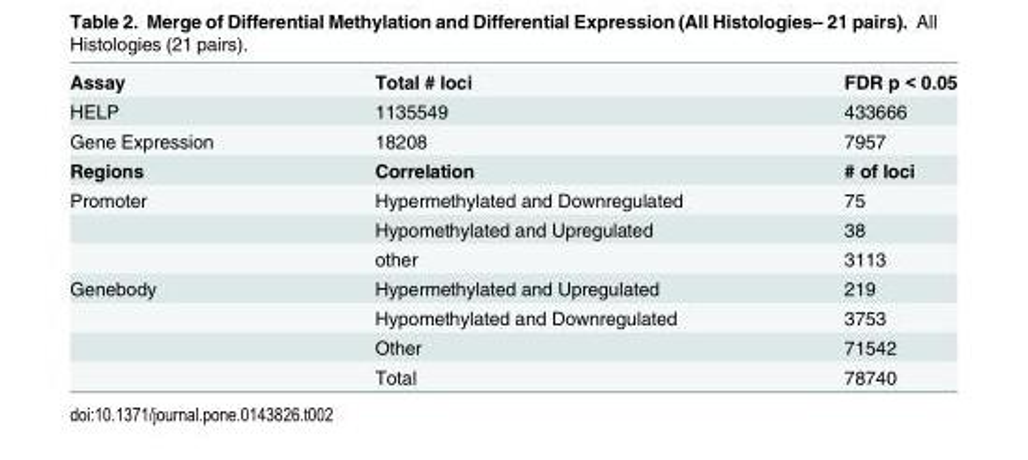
<table><tbody><tr><td>Assay</td><td>Total # loci</td><td>FDR p &lt; 0.05</td></tr><tr><td>HELP</td><td>1135549</td><td>433666</td></tr><tr><td>Gene Expression</td><td>18208</td><td>7957</td></tr><tr><td>Regions</td><td>Correlation</td><td># of loci</td></tr><tr><td rowspan="3">Promoter</td><td>Hypermethylated and Downregulated</td><td>75</td></tr><tr><td>Hypomethylated and Upregulated</td><td>38</td></tr><tr><td>other</td><td>3113</td></tr><tr><td rowspan="4">Genebody</td><td>Hypermethylated and Upregulated</td><td>219</td></tr><tr><td>Hypomethylated and Downregulated</td><td>3753</td></tr><tr><td>Other</td><td>71542</td></tr><tr><td>Total</td><td>78740</td></tr></tbody></table>